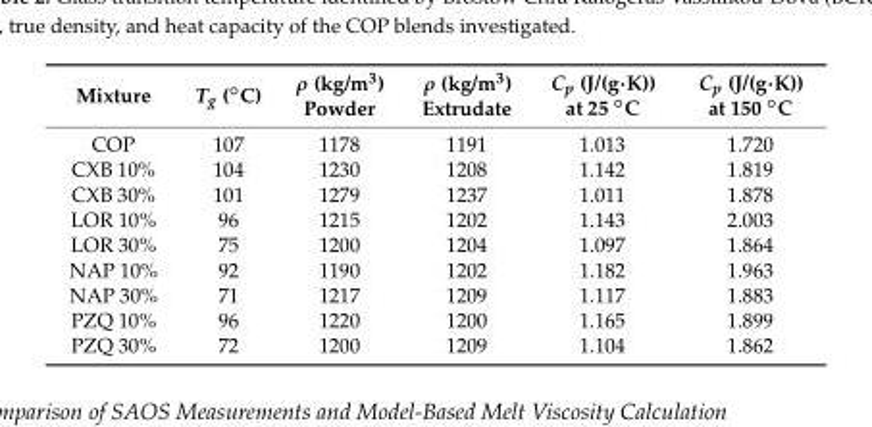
<table><thead><tr><td>Mixture</td><td>Tg (◦C)</td><td>ρ (kg/m<sup>3</sup>) Powder</td><td>ρ (kg/m<sup>3</sup>) Extrudate</td><td>Cp (J/(g·K)) at 25 ◦C</td><td>Cp (J/(g·K)) at 150 ◦C</td></tr></thead><tbody><tr><td>COP</td><td>107</td><td>1178</td><td>1191</td><td>1.013</td><td>1.720</td></tr><tr><td>CXB 10%</td><td>104</td><td>1230</td><td>1208</td><td>1.142</td><td>1.819</td></tr><tr><td>CXB 30%</td><td>101</td><td>1279</td><td>1237</td><td>1.011</td><td>1.878</td></tr><tr><td>LOR 10%</td><td>96</td><td>1215</td><td>1202</td><td>1.143</td><td>2.003</td></tr><tr><td>LOR 30%</td><td>75</td><td>1200</td><td>1204</td><td>1.097</td><td>1.864</td></tr><tr><td>NAP 10%</td><td>92</td><td>1190</td><td>1202</td><td>1.182</td><td>1.963</td></tr><tr><td>NAP 30%</td><td>71</td><td>1217</td><td>1209</td><td>1.117</td><td>1.883</td></tr><tr><td>PZQ 10%</td><td>96</td><td>1220</td><td>1200</td><td>1.165</td><td>1.899</td></tr><tr><td>PZQ 30%</td><td>72</td><td>1200</td><td>1209</td><td>1.104</td><td>1.862</td></tr></tbody></table>